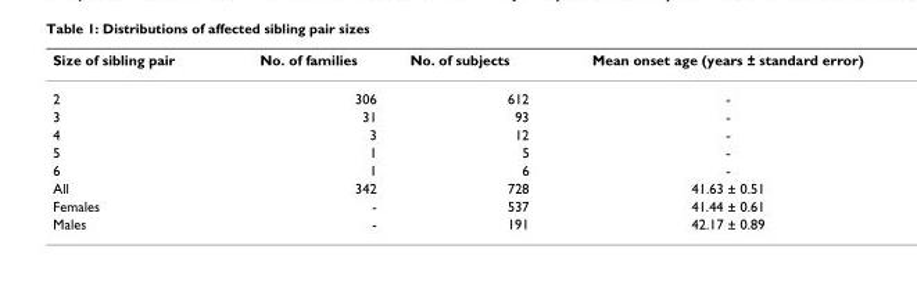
<table><thead><tr><td>Size of sibling pair</td><td>No. of families</td><td>No. of subjects</td><td>Mean onset age (years ± standard error)</td></tr></thead><tbody><tr><td>2</td><td>306</td><td>612</td><td>-</td></tr><tr><td>3</td><td>31</td><td>93</td><td>-</td></tr><tr><td>4</td><td>3</td><td>12</td><td>-</td></tr><tr><td>5</td><td>1</td><td>5</td><td>-</td></tr><tr><td>6</td><td>1</td><td>6</td><td>-</td></tr><tr><td>All</td><td>342</td><td>728</td><td>41.63 ± 0.51</td></tr><tr><td>Females</td><td>-</td><td>537</td><td>41.44 ± 0.61</td></tr><tr><td>Males</td><td>-</td><td>191</td><td>42.17 ± 0.89</td></tr></tbody></table>